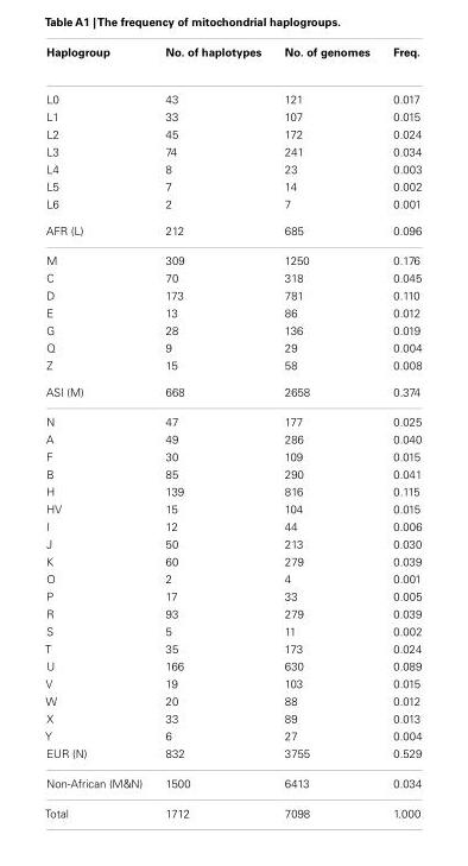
<table><thead><tr><td>Haplogroup</td><td>No. of haplotypes</td><td>No. of genomes</td><td>Freq.</td></tr></thead><tbody><tr><td>L0</td><td>43</td><td>121</td><td>0.017</td></tr><tr><td>L1</td><td>33</td><td>107</td><td>0.015</td></tr><tr><td>L2</td><td>45</td><td>172</td><td>0.024</td></tr><tr><td>L3</td><td>74</td><td>241</td><td>0.034</td></tr><tr><td>L4</td><td>8</td><td>23</td><td>0.003</td></tr><tr><td>L5</td><td>7</td><td>14</td><td>0.002</td></tr><tr><td>L6</td><td>2</td><td>7</td><td>0.001</td></tr><tr><td>AFR (L)</td><td>212</td><td>685</td><td>0.096</td></tr><tr><td>M</td><td>309</td><td>1250</td><td>0.176</td></tr><tr><td>C</td><td>70</td><td>318</td><td>0.045</td></tr><tr><td>D</td><td>173</td><td>781</td><td>0.110</td></tr><tr><td>E</td><td>13</td><td>86</td><td>0.012</td></tr><tr><td>G</td><td>28</td><td>136</td><td>0.019</td></tr><tr><td>Q</td><td>9</td><td>29</td><td>0.004</td></tr><tr><td>Z</td><td>15</td><td>58</td><td>0.008</td></tr><tr><td>ASI (M)</td><td>668</td><td>2658</td><td>0.374</td></tr><tr><td>N</td><td>47</td><td>177</td><td>0.025</td></tr><tr><td>A</td><td>49</td><td>286</td><td>0.040</td></tr><tr><td>F</td><td>30</td><td>109</td><td>0.015</td></tr><tr><td>B</td><td>85</td><td>290</td><td>0.041</td></tr><tr><td>H</td><td>139</td><td>816</td><td>0.115</td></tr><tr><td>HV</td><td>15</td><td>104</td><td>0.015</td></tr><tr><td>I</td><td>12</td><td>44</td><td>0.006</td></tr><tr><td>J</td><td>50</td><td>213</td><td>0.030</td></tr><tr><td>K</td><td>60</td><td>279</td><td>0.039</td></tr><tr><td>O</td><td>2</td><td>4</td><td>0.001</td></tr><tr><td>P</td><td>17</td><td>33</td><td>0.005</td></tr><tr><td>R</td><td>93</td><td>279</td><td>0.039</td></tr><tr><td>S</td><td>5</td><td>11</td><td>0.002</td></tr><tr><td>T</td><td>35</td><td>173</td><td>0.024</td></tr><tr><td>U</td><td>166</td><td>630</td><td>0.089</td></tr><tr><td>V</td><td>19</td><td>103</td><td>0.015</td></tr><tr><td>W</td><td>20</td><td>88</td><td>0.012</td></tr><tr><td>X</td><td>33</td><td>89</td><td>0.013</td></tr><tr><td>Y</td><td>6</td><td>27</td><td>0.004</td></tr><tr><td>EUR (N)</td><td>832</td><td>3755</td><td>0.529</td></tr><tr><td>Non-African (M&amp;N)</td><td>1500</td><td>6413</td><td>0.034</td></tr><tr><td>Total</td><td>1712</td><td>7098</td><td>1.000</td></tr></tbody></table>